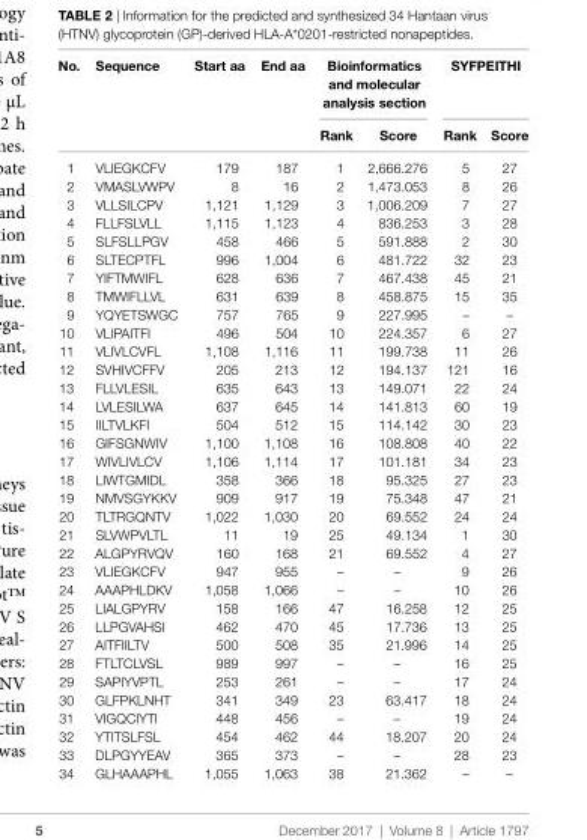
<table><thead><tr><td rowspan="2">no.</td><td rowspan="2">sequence</td><td rowspan="2">start aa</td><td rowspan="2">end aa</td><td colspan="2">bioinformatics and molecular analysis section</td><td colspan="2">sYFPeiThi</td></tr><tr><td>rank</td><td>score</td><td>rank</td><td>score</td></tr></thead><tbody><tr><td>1</td><td>VLIEGKCFV</td><td>179</td><td>187</td><td>1</td><td>2,666.276</td><td>5</td><td>27</td></tr><tr><td>2</td><td>VMASLVWPV</td><td>8</td><td>16</td><td>2</td><td>1,473.053</td><td>8</td><td>26</td></tr><tr><td>3</td><td>VLLSILCPV</td><td>1,121</td><td>1,129</td><td>3</td><td>1,006.209</td><td>7</td><td>27</td></tr><tr><td>4</td><td>FLLFSLVLL</td><td>1,115</td><td>1,123</td><td>4</td><td>836.253</td><td>3</td><td>28</td></tr><tr><td>5</td><td>SLFSLLPGV</td><td>458</td><td>466</td><td>5</td><td>591.888</td><td>2</td><td>30</td></tr><tr><td>6</td><td>SLTECPTFL</td><td>996</td><td>1,004</td><td>6</td><td>481.722</td><td>32</td><td>23</td></tr><tr><td>7</td><td>YIFTMWIFL</td><td>628</td><td>636</td><td>7</td><td>467.438</td><td>45</td><td>21</td></tr><tr><td>8</td><td>TMWIFLLVL</td><td>631</td><td>639</td><td>8</td><td>458.875</td><td>15</td><td>35</td></tr><tr><td>9</td><td>YQYETSWGC</td><td>757</td><td>765</td><td>9</td><td>227.995</td><td>–</td><td>–</td></tr><tr><td>10</td><td>VLIPAITFI</td><td>496</td><td>504</td><td>10</td><td>224.357</td><td>6</td><td>27</td></tr><tr><td>11</td><td>VLIVLCVFL</td><td>1,108</td><td>1,116</td><td>11</td><td>199.738</td><td>11</td><td>26</td></tr><tr><td>12</td><td>SVHIVCFFV</td><td>205</td><td>213</td><td>12</td><td>194.137</td><td>121</td><td>16</td></tr><tr><td>13</td><td>FLLVLESIL</td><td>635</td><td>643</td><td>13</td><td>149.071</td><td>22</td><td>24</td></tr><tr><td>14</td><td>LVLESILWA</td><td>637</td><td>645</td><td>14</td><td>141.813</td><td>60</td><td>19</td></tr><tr><td>15</td><td>IILTVLKFI</td><td>504</td><td>512</td><td>15</td><td>114.142</td><td>30</td><td>23</td></tr><tr><td>16</td><td>GIFSGNWIV</td><td>1,100</td><td>1,108</td><td>16</td><td>108.808</td><td>40</td><td>22</td></tr><tr><td>17</td><td>WIVLIVLCV</td><td>1,106</td><td>1,114</td><td>17</td><td>101.181</td><td>34</td><td>23</td></tr><tr><td>18</td><td>LIWTGMIDL</td><td>358</td><td>366</td><td>18</td><td>95.325</td><td>27</td><td>23</td></tr><tr><td>19</td><td>NMVSGYKKV</td><td>909</td><td>917</td><td>19</td><td>75.348</td><td>47</td><td>21</td></tr><tr><td>20</td><td>TLTRGQNTV</td><td>1,022</td><td>1,030</td><td>20</td><td>69.552</td><td>24</td><td>24</td></tr><tr><td>21</td><td>SLVWPVLTL</td><td>11</td><td>19</td><td>25</td><td>49.134</td><td>1</td><td>30</td></tr><tr><td>22</td><td>ALGPYRVQV</td><td>160</td><td>168</td><td>21</td><td>69.552</td><td>4</td><td>27</td></tr><tr><td>23</td><td>VLIEGKCFV</td><td>947</td><td>955</td><td>–</td><td>–</td><td>9</td><td>26</td></tr><tr><td>24</td><td>AAAPHLDKV</td><td>1,058</td><td>1,066</td><td>–</td><td>–</td><td>10</td><td>26</td></tr><tr><td>25</td><td>LIALGPYRV</td><td>158</td><td>166</td><td>47</td><td>16.258</td><td>12</td><td>25</td></tr><tr><td>26</td><td>LLPGVAHSI</td><td>462</td><td>470</td><td>45</td><td>17.736</td><td>13</td><td>25</td></tr><tr><td>27</td><td>AITFIILTV</td><td>500</td><td>508</td><td>35</td><td>21.996</td><td>14</td><td>25</td></tr><tr><td>28</td><td>FTLTCLVSL</td><td>989</td><td>997</td><td>–</td><td>–</td><td>16</td><td>25</td></tr><tr><td>29</td><td>SAPIYVPTL</td><td>253</td><td>261</td><td>–</td><td>–</td><td>17</td><td>24</td></tr><tr><td>30</td><td>GLFPKLNHT</td><td>341</td><td>349</td><td>23</td><td>63.417</td><td>18</td><td>24</td></tr><tr><td>31</td><td>VIGQCIYTI</td><td>448</td><td>456</td><td>–</td><td>–</td><td>19</td><td>24</td></tr><tr><td>32</td><td>YTITSLFSL</td><td>454</td><td>462</td><td>44</td><td>18.207</td><td>20</td><td>24</td></tr><tr><td>33</td><td>DLPGYYEAV</td><td>365</td><td>373</td><td>–</td><td>–</td><td>28</td><td>23</td></tr><tr><td>34</td><td>GLHAAAPHL</td><td>1,055</td><td>1,063</td><td>38</td><td>21.362</td><td>–</td><td>–</td></tr></tbody></table>